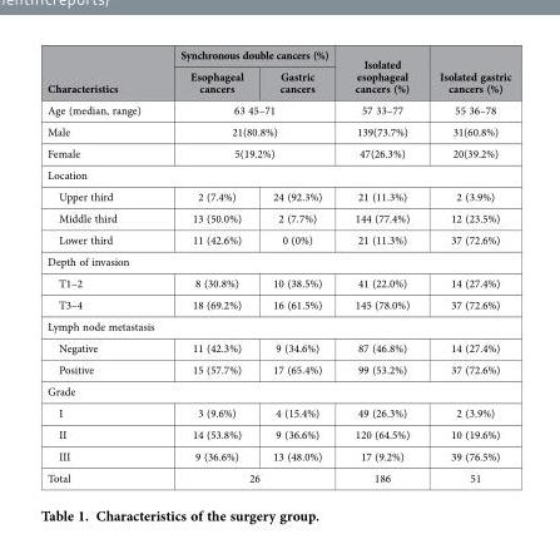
<table><thead><tr><td rowspan="2">Characteristics</td><td colspan="2">Synchronous double cancers (%)</td><td rowspan="2">Isolated esophageal cancers (%)</td><td rowspan="2">Isolated gastric cancers (%)</td></tr><tr><td>Esophageal cancers</td><td>Gastric cancers</td></tr></thead><tbody><tr><td>Age (median, range)</td><td colspan="2">63 45–71</td><td>57 33–77</td><td>55 36–78</td></tr><tr><td>Male</td><td colspan="2">21(80.8%)</td><td>139(73.7%)</td><td>31(60.8%)</td></tr><tr><td>Female</td><td colspan="2">5(19.2%)</td><td>47(26.3%)</td><td>20(39.2%)</td></tr><tr><td colspan="5">Location</td></tr><tr><td>Upper third</td><td>2 (7.4%)</td><td>24 (92.3%)</td><td>21 (11.3%)</td><td>2 (3.9%)</td></tr><tr><td>Middle third</td><td>13 (50.0%)</td><td>2 (7.7%)</td><td>144 (77.4%)</td><td>12 (23.5%)</td></tr><tr><td>Lower third</td><td>11 (42.6%)</td><td>0 (0%)</td><td>21 (11.3%)</td><td>37 (72.6%)</td></tr><tr><td colspan="5">Depth of invasion</td></tr><tr><td>T1–2</td><td>8 (30.8%)</td><td>10 (38.5%)</td><td>41 (22.0%)</td><td>14 (27.4%)</td></tr><tr><td>T3–4</td><td>18 (69.2%)</td><td>16 (61.5%)</td><td>145 (78.0%)</td><td>37 (72.6%)</td></tr><tr><td colspan="5">Lymph node metastasis</td></tr><tr><td>Negative</td><td>11 (42.3%)</td><td>9 (34.6%)</td><td>87 (46.8%)</td><td>14 (27.4%)</td></tr><tr><td>Positive</td><td>15 (57.7%)</td><td>17 (65.4%)</td><td>99 (53.2%)</td><td>37 (72.6%)</td></tr><tr><td colspan="5">Grade</td></tr><tr><td>I</td><td>3 (9.6%)</td><td>4 (15.4%)</td><td>49 (26.3%)</td><td>2 (3.9%)</td></tr><tr><td>II</td><td>14 (53.8%)</td><td>9 (36.6%)</td><td>120 (64.5%)</td><td>10 (19.6%)</td></tr><tr><td>III</td><td>9 (36.6%)</td><td>13 (48.0%)</td><td>17 (9.2%)</td><td>39 (76.5%)</td></tr><tr><td>Total</td><td colspan="2">26</td><td>186</td><td>51</td></tr></tbody></table>